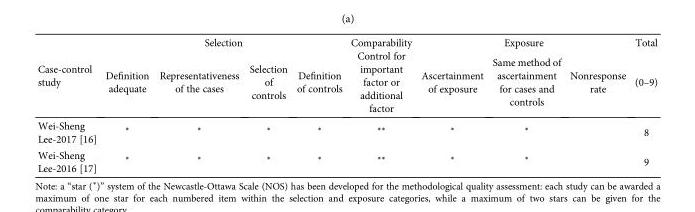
<table><thead><tr><td rowspan="2">Case-control study</td><td colspan="4">Selection</td><td rowspan="2">Comparability Control for important factor or additional factor</td><td colspan="3">Exposure</td><td rowspan="2">Total (0–9)</td></tr><tr><td>Definition adequate</td><td>Representativeness of the cases</td><td>Selection of controls</td><td>Definition of controls</td><td>Ascertainment of exposure</td><td>Same method of ascertainment for cases and controls</td><td>Nonresponse rate</td></tr></thead><tbody><tr><td>Wei-Sheng Lee-2017 [16]</td><td>∗</td><td>∗</td><td>∗</td><td>∗</td><td>∗∗</td><td>∗</td><td>∗</td><td></td><td>8</td></tr><tr><td>Wei-Sheng Lee-2016 [17]</td><td>∗</td><td>∗</td><td>∗</td><td>∗</td><td>∗∗</td><td>∗</td><td>∗</td><td></td><td>9</td></tr></tbody></table>